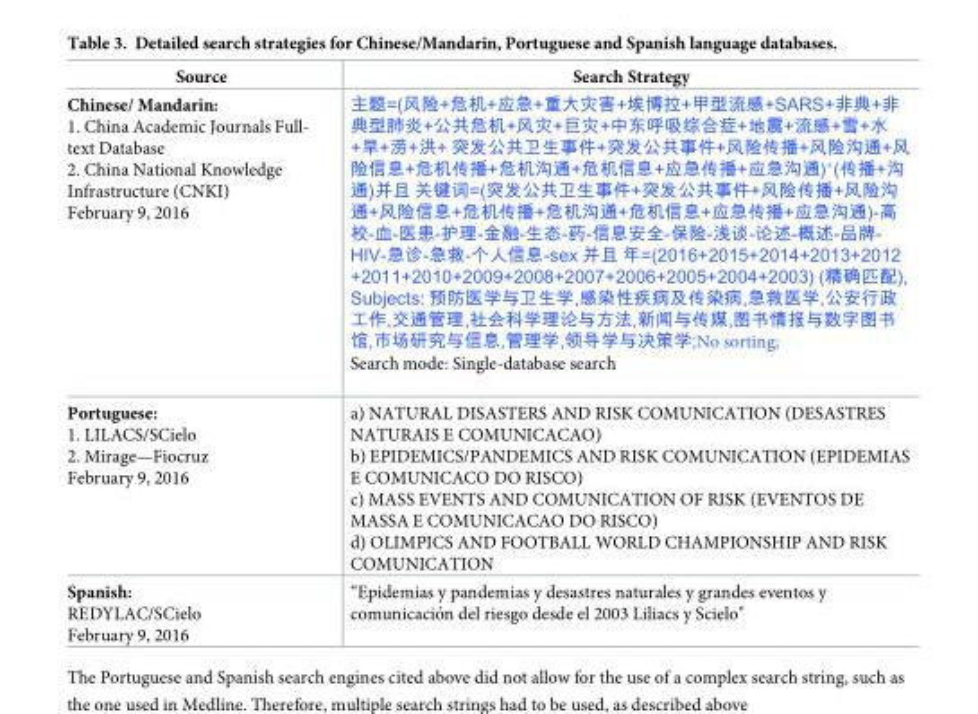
<table><thead><tr><td>Source</td><td>Search Strategy</td></tr></thead><tbody><tr><td>Chinese/ Mandarin: 1. China Academic Journals Full- text Database 2. China National Knowledge Infrastructure (CNKI) February 9, 2016</td><td>主题=(风险+危机+应急+重大灾害+埃博拉+甲型流感+SARS+非典+非 典型肺炎+公共危机+风灾+巨灾+中东呼吸综合症+地震+流感+雪+水 +旱+涝+洪+ 突发公共卫生事件+突发公共事件+风险传播+风险沟通+风 险信息+危机传播+危机沟通+危机信息+应急传播+应急沟通)*(传播+沟 通)并且 关键词=(突发公共卫生事件+突发公共事件+风险传播+风险沟 通+风险信息+危机传播+危机沟通+危机信息+应急传播+应急沟通)-高 校-血-医患-护理-金融-生态-药-信息安全-保险-浅谈-论述-概述-品牌- HIV-急诊-急救-个人信息-sex 并且 年=(2016+2015+2014+2013+2012 +2011+2010+2009+2008+2007+2006+2005+2004+2003) (精确匹配), Subjects: 预防医学与卫生学,感染性疾病及传染病,急救医学,公安行政 工作,交通管理,社会科学理论与方法,新闻与传媒,图书情报与数字图书 馆,市场研究与信息,管理学,领导学与决策学;No sorting; Search mode: Single-database search</td></tr><tr><td>Portuguese: 1. LILACS/SCielo 2. Mirage—Fiocruz February 9, 2016</td><td>a) NATURAL DISASTERS AND RISK COMUNICATION (DESASTRES NATURAIS E COMUNICACAO) b) EPIDEMICS/PANDEMICS AND RISK COMUNICATION (EPIDEMIAS E COMUNICACO DO RISCO) c) MASS EVENTS AND COMUNICATION OF RISK (EVENTOS DE MASSA E COMUNICACAO DO RISCO) d) OLIMPICS AND FOOTBALL WORLD CHAMPIONSHIP AND RISK COMUNICATION</td></tr><tr><td>Spanish: REDYLAC/SCielo February 9, 2016</td><td>“Epidemias y pandemias y desastres naturales y grandes eventos y comunicacio´n del riesgo desde el 2003 Liliacs y Scielo&quot;</td></tr></tbody></table>